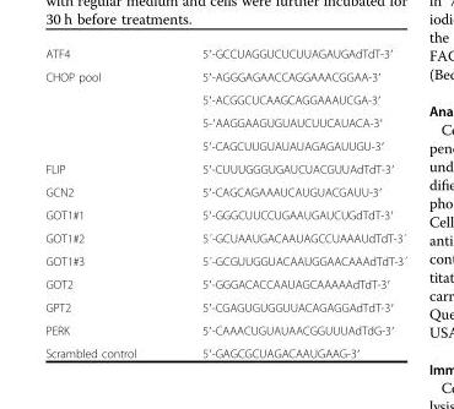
<table><tbody><tr><td>ATF4</td><td>5′-GCCUAGGUCUCUUAGAUGAdTdT-3′</td></tr><tr><td rowspan="4">CHOP pool</td><td>5′-AGGGAGAACCAGGAAACGGAA-3′</td></tr><tr><td>5′-ACGGCUCAAGCAGGAAAUCGA-3′</td></tr><tr><td>5-′AAGGAAGUGUAUCUUCAUACA-3′</td></tr><tr><td>5′-CAGCUUGUAUAUAGAGAUUGU-3′</td></tr><tr><td>FLIP</td><td>5′-CUUUGGGUGAUCUACGUUAdTdT-3′</td></tr><tr><td>GCN2</td><td>5′-CAGCAGAAAUCAUGUACGAUU-3′</td></tr><tr><td>GOT1#1</td><td>5′-GGGCUUCCUGAAUGAUCUGdTdT-3′</td></tr><tr><td>GOT1#2</td><td>5´-GCUAAUGACAAUAGCCUAAAUdTdT-3´</td></tr><tr><td>GOT1#3</td><td>5´-GCGUUGGUACAAUGGAACAAAdTdT-3´</td></tr><tr><td>GOT2</td><td>5′-GGGACACCAAUAGCAAAAAdTdT-3′</td></tr><tr><td>GPT2</td><td>5′-CGAGUGUGGUUACAGAGGAdTdT-3′</td></tr><tr><td>PERK</td><td>5′-CAAACUGUAUAACGGUUUAdTdG-3′</td></tr><tr><td>Scrambled control</td><td>5′-GAGCGCUAGACAAUGAAG-3′</td></tr></tbody></table>